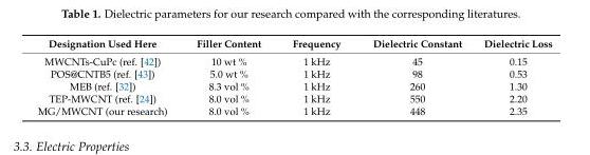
<table><thead><tr><td>Designation Used Here</td><td>Filler Content</td><td>Frequency</td><td>Dielectric Constant</td><td>Dielectric Loss</td></tr></thead><tbody><tr><td>MWCNTs-CuPc (ref. [42])</td><td>10 wt %</td><td>1 kHz</td><td>45</td><td>0.15</td></tr><tr><td>POS@CNTB5 (ref. [43])</td><td>5.0 wt %</td><td>1 kHz</td><td>98</td><td>0.53</td></tr><tr><td>MEB (ref. [32])</td><td>8.3 vol %</td><td>1 kHz</td><td>260</td><td>1.30</td></tr><tr><td>TEP-MWCNT (ref. [24])</td><td>8.0 vol %</td><td>1 kHz</td><td>550</td><td>2.20</td></tr><tr><td>MG/MWCNT (our research)</td><td>8.0 vol %</td><td>1 kHz</td><td>448</td><td>2.35</td></tr></tbody></table>